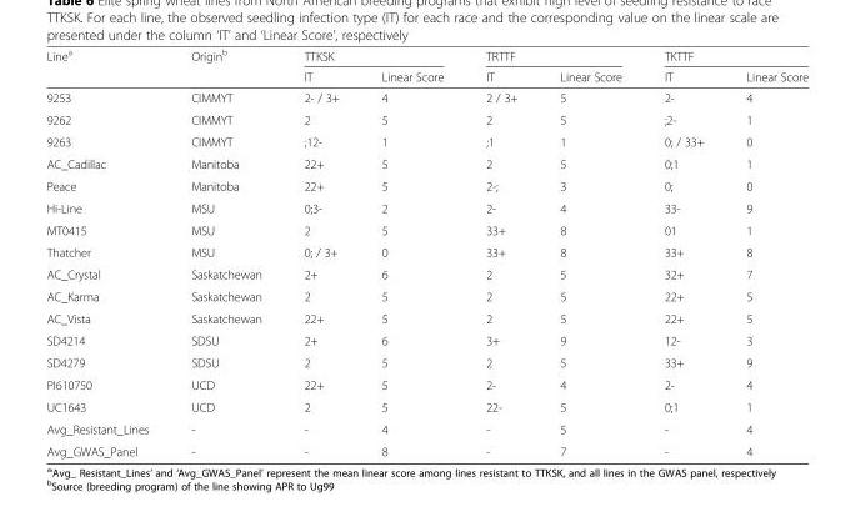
<table><thead><tr><td rowspan="2">Line<sup>a</sup></td><td rowspan="2">Origin<sup>b</sup></td><td colspan="2">TTKSK</td><td colspan="2">TRTTF</td><td colspan="2">TKTTF</td></tr><tr><td>IT</td><td>Linear Score</td><td>IT</td><td>Linear Score</td><td>IT</td><td>Linear Score</td></tr></thead><tbody><tr><td>9253</td><td>CIMMYT</td><td>2- / 3+</td><td>4</td><td>2 / 3+</td><td>5</td><td>2-</td><td>4</td></tr><tr><td>9262</td><td>CIMMYT</td><td>2</td><td>5</td><td>2</td><td>5</td><td>;2-</td><td>1</td></tr><tr><td>9263</td><td>CIMMYT</td><td>;12-</td><td>1</td><td>;1</td><td>1</td><td>0; / 33+</td><td>0</td></tr><tr><td>AC_Cadillac</td><td>Manitoba</td><td>22+</td><td>5</td><td>2</td><td>5</td><td>0;1</td><td>1</td></tr><tr><td>Peace</td><td>Manitoba</td><td>22+</td><td>5</td><td>2-;</td><td>3</td><td>0;</td><td>0</td></tr><tr><td>Hi-Line</td><td>MSU</td><td>0;3-</td><td>2</td><td>2-</td><td>4</td><td>33-</td><td>9</td></tr><tr><td>MT0415</td><td>MSU</td><td>2</td><td>5</td><td>33+</td><td>8</td><td>01</td><td>1</td></tr><tr><td>Thatcher</td><td>MSU</td><td>0; / 3+</td><td>0</td><td>33+</td><td>8</td><td>33+</td><td>8</td></tr><tr><td>AC_Crystal</td><td>Saskatchewan</td><td>2+</td><td>6</td><td>2</td><td>5</td><td>32+</td><td>7</td></tr><tr><td>AC_Karma</td><td>Saskatchewan</td><td>2</td><td>5</td><td>2</td><td>5</td><td>22+</td><td>5</td></tr><tr><td>AC_Vista</td><td>Saskatchewan</td><td>22+</td><td>5</td><td>2</td><td>5</td><td>22+</td><td>5</td></tr><tr><td>SD4214</td><td>SDSU</td><td>2+</td><td>6</td><td>3+</td><td>9</td><td>12-</td><td>3</td></tr><tr><td>SD4279</td><td>SDSU</td><td>2</td><td>5</td><td>2</td><td>5</td><td>33+</td><td>9</td></tr><tr><td>PI610750</td><td>UCD</td><td>22+</td><td>5</td><td>2-</td><td>4</td><td>2-</td><td>4</td></tr><tr><td>UC1643</td><td>UCD</td><td>2</td><td>5</td><td>22-</td><td>5</td><td>0;1</td><td>1</td></tr><tr><td>Avg_Resistant_Lines</td><td>-</td><td>-</td><td>4</td><td>-</td><td>5</td><td>-</td><td>4</td></tr><tr><td>Avg_GWAS_Panel</td><td>-</td><td>-</td><td>8</td><td>-</td><td>7</td><td>-</td><td>4</td></tr></tbody></table>